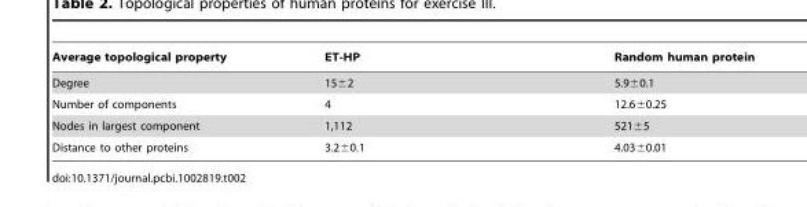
<table><thead><tr><td>Average topological property</td><td>ET-HP</td><td>Random human protein</td></tr></thead><tbody><tr><td>Degree</td><td>15±2</td><td>5.9±0.1</td></tr><tr><td>Number of components</td><td>4</td><td>12.6±0.25</td></tr><tr><td>Nodes in largest component</td><td>1,112</td><td>521±5</td></tr><tr><td>Distance to other proteins</td><td>3.2±0.1</td><td>4.03±0.01</td></tr></tbody></table>